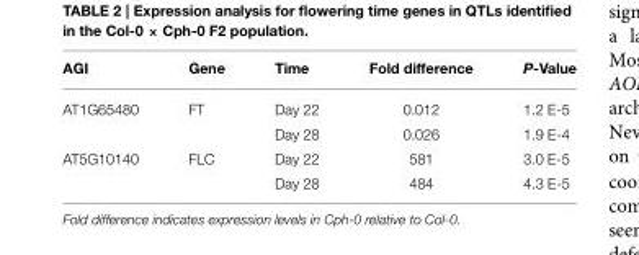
<table><thead><tr><td>AGI</td><td>Gene</td><td>Time</td><td>Fold difference</td><td>P-Value</td></tr></thead><tbody><tr><td rowspan="2">AT1G65480</td><td>FT</td><td>Day 22</td><td>0.012</td><td>1.2 E-5</td></tr><tr><td></td><td>Day 28</td><td>0.026</td><td>1.9 E-4</td></tr><tr><td rowspan="2">AT5G10140</td><td>FLC</td><td>Day 22</td><td>581</td><td>3.0 E-5</td></tr><tr><td></td><td>Day 28</td><td>484</td><td>4.3 E-5</td></tr></tbody></table>